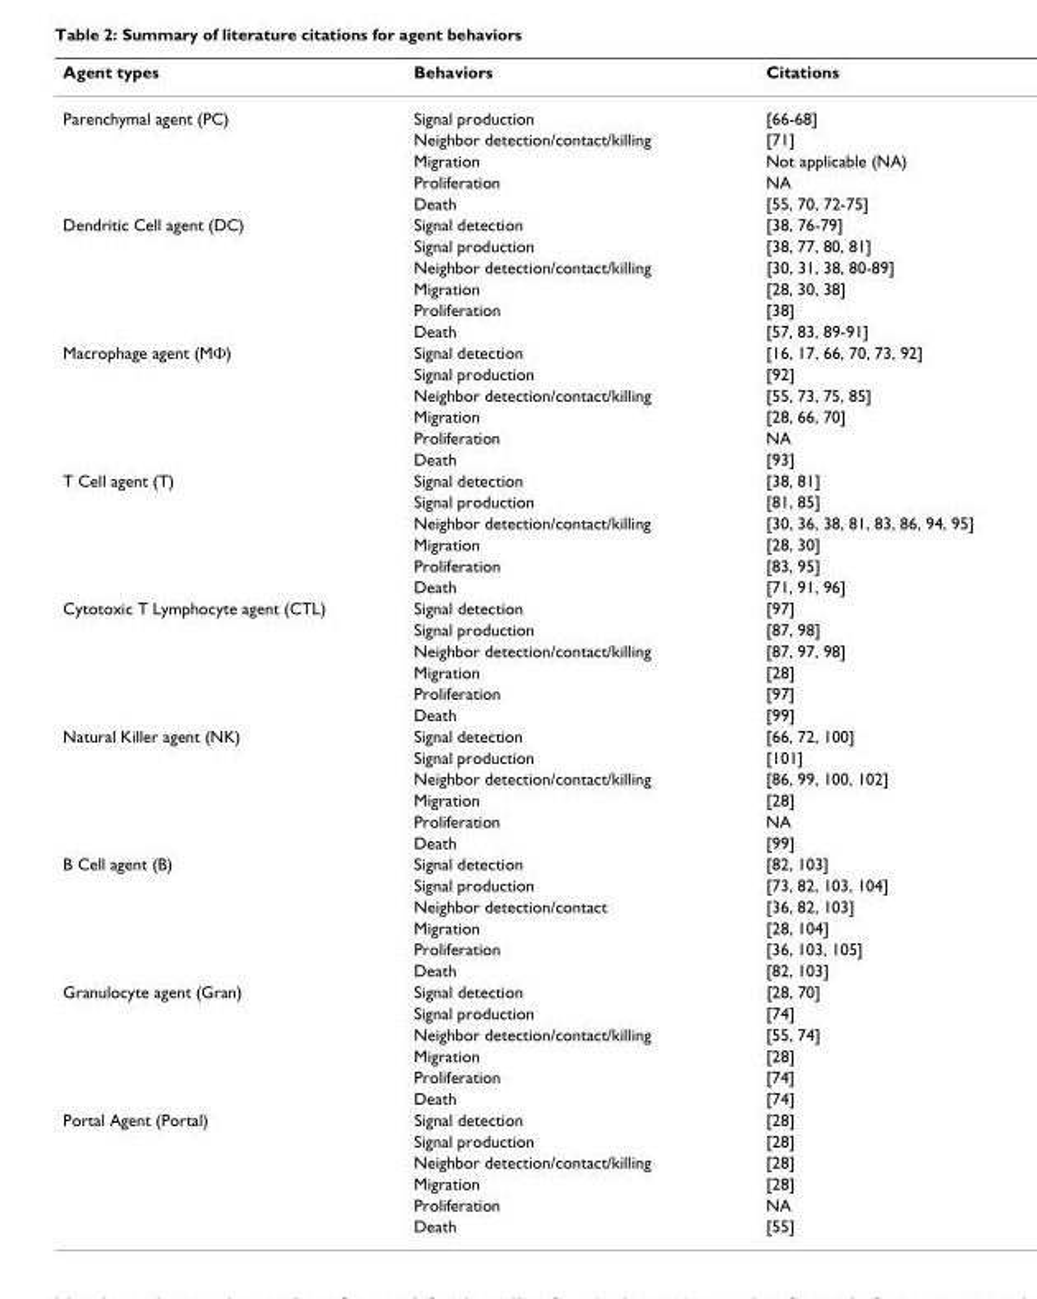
<table><thead><tr><td>Agent types</td><td>Behaviors</td><td>Citations</td></tr></thead><tbody><tr><td rowspan="5">Parenchymal agent (PC)</td><td>Signal production</td><td>[66-68]</td></tr><tr><td>Neighbor detection/contact/killing</td><td>[71]</td></tr><tr><td>Migration</td><td>Not applicable (NA)</td></tr><tr><td>Proliferation</td><td>NA</td></tr><tr><td>Death</td><td>[55, 70, 72-75]</td></tr><tr><td rowspan="6">Dendritic Cell agent (DC)</td><td>Signal detection</td><td>[38, 76-79]</td></tr><tr><td>Signal production</td><td>[38, 77, 80, 81]</td></tr><tr><td>Neighbor detection/contact/killing</td><td>[30, 31, 38, 80-89]</td></tr><tr><td>Migration</td><td>[28, 30, 38]</td></tr><tr><td>Proliferation</td><td>[38]</td></tr><tr><td>Death</td><td>[57, 83, 89-91]</td></tr><tr><td rowspan="6">Macrophage agent (MΦ)</td><td>Signal detection</td><td>[16, 17, 66, 70, 73, 92]</td></tr><tr><td>Signal production</td><td>[92]</td></tr><tr><td>Neighbor detection/contact/killing</td><td>[55, 73, 75, 85]</td></tr><tr><td>Migration</td><td>[28, 66, 70]</td></tr><tr><td>Proliferation</td><td>NA</td></tr><tr><td>Death</td><td>[93]</td></tr><tr><td rowspan="6">T Cell agent (T)</td><td>Signal detection</td><td>[38, 81]</td></tr><tr><td>Signal production</td><td>[81, 85]</td></tr><tr><td>Neighbor detection/contact/killing</td><td>[30, 36, 38, 81, 83, 86, 94, 95]</td></tr><tr><td>Migration</td><td>[28, 30]</td></tr><tr><td>Proliferation</td><td>[83, 95]</td></tr><tr><td>Death</td><td>[71, 91, 96]</td></tr><tr><td rowspan="6">Cytotoxic T Lymphocyte agent (CTL)</td><td>Signal detection</td><td>[97]</td></tr><tr><td>Signal production</td><td>[87, 98]</td></tr><tr><td>Neighbor detection/contact/killing</td><td>[87, 97, 98]</td></tr><tr><td>Migration</td><td>[28]</td></tr><tr><td>Proliferation</td><td>[97]</td></tr><tr><td>Death</td><td>[99]</td></tr><tr><td rowspan="6">Natural Killer agent (NK)</td><td>Signal detection</td><td>[66, 72, 100]</td></tr><tr><td>Signal production</td><td>[101]</td></tr><tr><td>Neighbor detection/contact/killing</td><td>[86, 99, 100, 102]</td></tr><tr><td>Migration</td><td>[28]</td></tr><tr><td>Proliferation</td><td>NA</td></tr><tr><td>Death</td><td>[99]</td></tr><tr><td rowspan="6">B Cell agent (B)</td><td>Signal detection</td><td>[82, 103]</td></tr><tr><td>Signal production</td><td>[73, 82, 103, 104]</td></tr><tr><td>Neighbor detection/contact</td><td>[36, 82, 103]</td></tr><tr><td>Migration</td><td>[28, 104]</td></tr><tr><td>Proliferation</td><td>[36, 103, 105]</td></tr><tr><td>Death</td><td>[82, 103]</td></tr><tr><td rowspan="6">Granulocyte agent (Gran)</td><td>Signal detection</td><td>[28, 70]</td></tr><tr><td>Signal production</td><td>[74]</td></tr><tr><td>Neighbor detection/contact/killing</td><td>[55, 74]</td></tr><tr><td>Migration</td><td>[28]</td></tr><tr><td>Proliferation</td><td>[74]</td></tr><tr><td>Death</td><td>[74]</td></tr><tr><td rowspan="6">Portal Agent (Portal)</td><td>Signal detection</td><td>[28]</td></tr><tr><td>Signal production</td><td>[28]</td></tr><tr><td>Neighbor detection/contact/killing</td><td>[28]</td></tr><tr><td>Migration</td><td>[28]</td></tr><tr><td>Proliferation</td><td>NA</td></tr><tr><td>Death</td><td>[55]</td></tr></tbody></table>